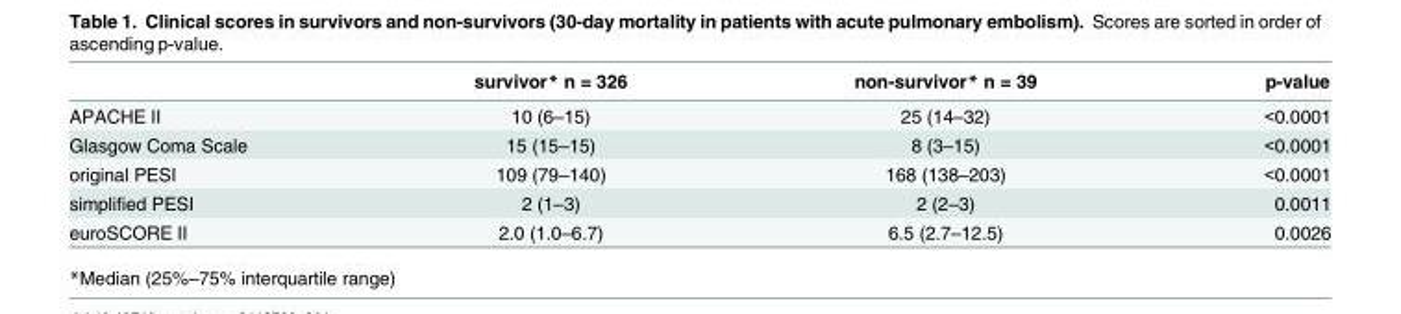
<table><thead><tr><td></td><td>survivor* n = 326</td><td>non-survivor* n = 39</td><td>p-value</td></tr></thead><tbody><tr><td>APACHE II</td><td>10 (6–15)</td><td>25 (14–32)</td><td>&lt;0.0001</td></tr><tr><td>Glasgow Coma Scale</td><td>15 (15–15)</td><td>8 (3–15)</td><td>&lt;0.0001</td></tr><tr><td>original PESI</td><td>109 (79–140)</td><td>168 (138–203)</td><td>&lt;0.0001</td></tr><tr><td>simplified PESI</td><td>2 (1–3)</td><td>2 (2–3)</td><td>0.0011</td></tr><tr><td>euroSCORE II</td><td>2.0 (1.0–6.7)</td><td>6.5 (2.7–12.5)</td><td>0.0026</td></tr></tbody></table>